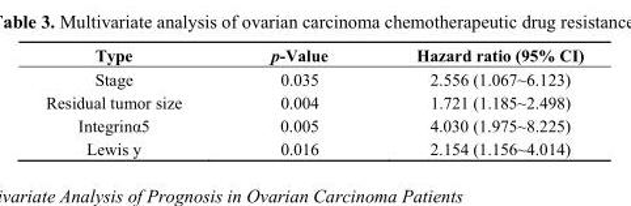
<table><thead><tr><td>Type</td><td>p-Value</td><td>Hazard ratio (95% CI)</td></tr></thead><tbody><tr><td>Stage</td><td>0.035</td><td>2.556 (1.067~6.123)</td></tr><tr><td>Residual tumor size</td><td>0.004</td><td>1.721 (1.185~2.498)</td></tr><tr><td>Integrinα5</td><td>0.005</td><td>4.030 (1.975~8.225)</td></tr><tr><td>Lewis y</td><td>0.016</td><td>2.154 (1.156~4.014)</td></tr></tbody></table>